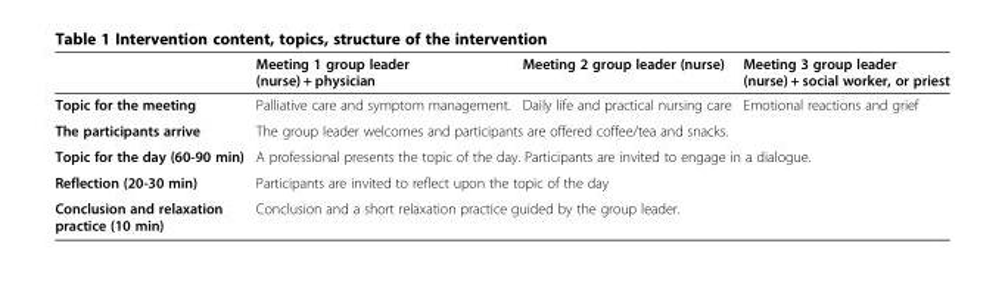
<table><thead><tr><td></td><td>Meeting 1 group leader (nurse) + physician</td><td>Meeting 2 group leader (nurse)</td><td>Meeting 3 group leader (nurse) + social worker, or priest</td></tr></thead><tbody><tr><td>Topic for the meeting</td><td>Palliative care and symptom management.</td><td>Daily life and practical nursing care</td><td>Emotional reactions and grief</td></tr><tr><td>The participants arrive</td><td colspan="3">The group leader welcomes and participants are offered coffee/tea and snacks.</td></tr><tr><td>Topic for the day (60-90 min)</td><td colspan="3">A professional presents the topic of the day. Participants are invited to engage in a dialogue.</td></tr><tr><td>Reflection (20-30 min)</td><td colspan="3">Participants are invited to reflect upon the topic of the day</td></tr><tr><td>Conclusion and relaxation practice (10 min)</td><td colspan="3">Conclusion and a short relaxation practice guided by the group leader.</td></tr></tbody></table>